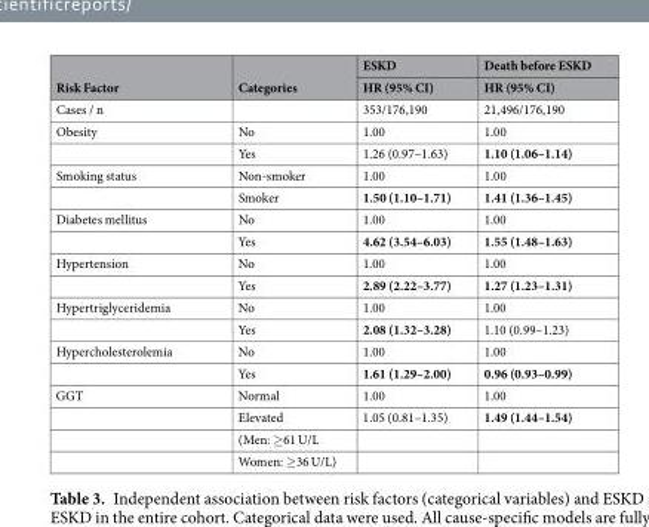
<table><thead><tr><td rowspan="2">Risk Factor</td><td rowspan="2">Categories</td><td rowspan="2">ESKD HR (95% CI)</td><td rowspan="2">Death before ESKD HR (95% CI)</td></tr><tr></tr></thead><tbody><tr><td>Cases / n</td><td></td><td>353/176,190</td><td>21,496/176,190</td></tr><tr><td rowspan="2">Obesity</td><td>No</td><td>1.00</td><td>1.00</td></tr><tr><td>Yes</td><td>1.26 (0.97–1.63)</td><td>1.10 (1.06–1.14)</td></tr><tr><td rowspan="2">Smoking status</td><td>Non-smoker</td><td>1.00</td><td>1.00</td></tr><tr><td>Smoker</td><td>1.50 (1.10–1.71)</td><td>1.41 (1.36–1.45)</td></tr><tr><td rowspan="2">Diabetes mellitus</td><td>No</td><td>1.00</td><td>1.00</td></tr><tr><td>Yes</td><td>4.62 (3.54–6.03)</td><td>1.55 (1.48–1.63)</td></tr><tr><td rowspan="2">Hypertension</td><td>No</td><td>1.00</td><td>1.00</td></tr><tr><td>Yes</td><td>2.89 (2.22–3.77)</td><td>1.27 (1.23–1.31)</td></tr><tr><td rowspan="2">Hypertriglyceridemia</td><td>No</td><td>1.00</td><td>1.00</td></tr><tr><td>Yes</td><td>2.08 (1.32–3.28)</td><td>1.10 (0.99–1.23)</td></tr><tr><td rowspan="2">Hypercholesterolemia</td><td>No</td><td>1.00</td><td>1.00</td></tr><tr><td>Yes</td><td>1.61 (1.29–2.00)</td><td>0.96 (0.93–0.99)</td></tr><tr><td rowspan="4">GGT</td><td>Normal</td><td>1.00</td><td>1.00</td></tr><tr><td>Elevated</td><td>1.05 (0.81–1.35)</td><td>1.49 (1.44–1.54)</td></tr><tr><td>(Men: ≥61 U/L</td><td></td><td></td></tr><tr><td>Women: ≥36 U/L)</td><td></td><td></td></tr></tbody></table>